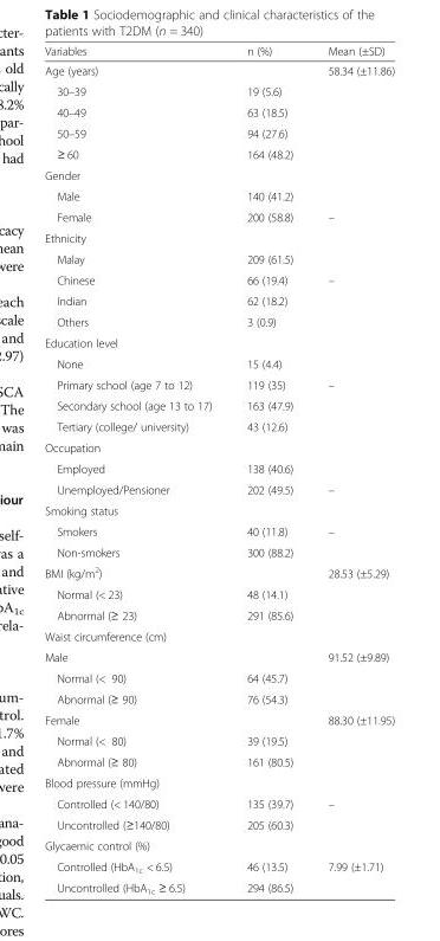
<table><thead><tr><td>Variables</td><td>n (%)</td><td>Mean (±SD)</td></tr></thead><tbody><tr><td>Age (years)</td><td></td><td>58.34 (±11.86)</td></tr><tr><td>30–39</td><td>19 (5.6)</td><td></td></tr><tr><td>40–49</td><td>63 (18.5)</td><td></td></tr><tr><td>50–59</td><td>94 (27.6)</td><td></td></tr><tr><td>≥ 60</td><td>164 (48.2)</td><td></td></tr><tr><td colspan="3">Gender</td></tr><tr><td>Male</td><td>140 (41.2)</td><td></td></tr><tr><td>Female</td><td>200 (58.8)</td><td>–</td></tr><tr><td colspan="3">Ethnicity</td></tr><tr><td>Malay</td><td>209 (61.5)</td><td></td></tr><tr><td>Chinese</td><td>66 (19.4)</td><td>–</td></tr><tr><td>Indian</td><td>62 (18.2)</td><td></td></tr><tr><td>Others</td><td>3 (0.9)</td><td></td></tr><tr><td colspan="3">Education level</td></tr><tr><td>None</td><td>15 (4.4)</td><td></td></tr><tr><td>Primary school (age 7 to 12)</td><td>119 (35)</td><td>–</td></tr><tr><td>Secondary school (age 13 to 17)</td><td>163 (47.9)</td><td></td></tr><tr><td>Tertiary (college/ university)</td><td>43 (12.6)</td><td></td></tr><tr><td colspan="3">Occupation</td></tr><tr><td>Employed</td><td>138 (40.6)</td><td></td></tr><tr><td>Unemployed/Pensioner</td><td>202 (49.5)</td><td>–</td></tr><tr><td colspan="3">Smoking status</td></tr><tr><td>Smokers</td><td>40 (11.8)</td><td>–</td></tr><tr><td>Non-smokers</td><td>300 (88.2)</td><td></td></tr><tr><td>BMI (kg/m<sup>2</sup>)</td><td></td><td>28.53 (±5.29)</td></tr><tr><td>Normal (&lt; 23)</td><td>48 (14.1)</td><td></td></tr><tr><td>Abnormal (≥ 23)</td><td>291 (85.6)</td><td></td></tr><tr><td colspan="3">Waist circumference (cm)</td></tr><tr><td>Male</td><td></td><td>91.52 (±9.89)</td></tr><tr><td>Normal (&lt; 90)</td><td>64 (45.7)</td><td></td></tr><tr><td>Abnormal (≥ 90)</td><td>76 (54.3)</td><td></td></tr><tr><td>Female</td><td></td><td>88.30 (±11.95)</td></tr><tr><td>Normal (&lt; 80)</td><td>39 (19.5)</td><td></td></tr><tr><td>Abnormal (≥ 80)</td><td>161 (80.5)</td><td></td></tr><tr><td colspan="3">Blood pressure (mmHg)</td></tr><tr><td>Controlled (&lt; 140/80)</td><td>135 (39.7)</td><td>–</td></tr><tr><td>Uncontrolled (≥140/80)</td><td>205 (60.3)</td><td></td></tr><tr><td colspan="3">Glycaemic control (%)</td></tr><tr><td>Controlled (HbA<sub>1c</sub> &lt; 6.5)</td><td>46 (13.5)</td><td>7.99 (±1.71)</td></tr><tr><td>Uncontrolled (HbA<sub>1c</sub> ≥ 6.5)</td><td>294 (86.5)</td><td></td></tr></tbody></table>